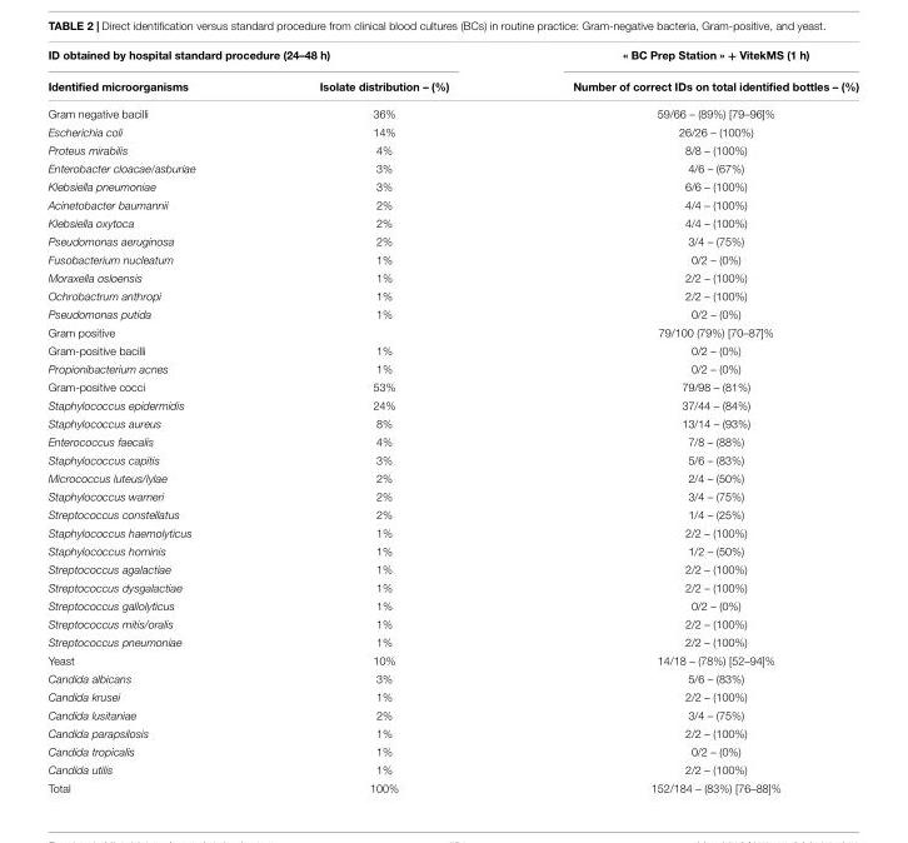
<table><thead><tr><td colspan="2">ID obtained by hospital standard procedure (24–48 h)</td><td rowspan="2">« BC Prep Station » + VitekMS (1 h) Number of correct IDs on total identified bottles – (%)</td></tr><tr><td>Identified microorganisms</td><td>Isolate distribution – (%)</td></tr></thead><tbody><tr><td>Gram negative bacilli</td><td>36%</td><td>59/66 – (89%) [79–96]%</td></tr><tr><td>Escherichia coli</td><td>14%</td><td>26/26 – (100%)</td></tr><tr><td>Proteus mirabilis</td><td>4%</td><td>8/8 – (100%)</td></tr><tr><td>Enterobacter cloacae/asburiae</td><td>3%</td><td>4/6 – (67%)</td></tr><tr><td>Klebsiella pneumoniae</td><td>3%</td><td>6/6 – (100%)</td></tr><tr><td>Acinetobacter baumannii</td><td>2%</td><td>4/4 – (100%)</td></tr><tr><td>Klebsiella oxytoca</td><td>2%</td><td>4/4 – (100%)</td></tr><tr><td>Pseudomonas aeruginosa</td><td>2%</td><td>3/4 – (75%)</td></tr><tr><td>Fusobacterium nucleatum</td><td>1%</td><td>0/2 – (0%)</td></tr><tr><td>Moraxella osloensis</td><td>1%</td><td>2/2 – (100%)</td></tr><tr><td>Ochrobactrum anthropi</td><td>1%</td><td>2/2 – (100%)</td></tr><tr><td>Pseudomonas putida</td><td>1%</td><td>0/2 – (0%)</td></tr><tr><td>Gram positive</td><td></td><td>79/100 (79%) [70–87]%</td></tr><tr><td>Gram-positive bacilli</td><td>1%</td><td>0/2 – (0%)</td></tr><tr><td>Propionibacterium acnes</td><td>1%</td><td>0/2 – (0%)</td></tr><tr><td>Gram-positive cocci</td><td>53%</td><td>79/98 – (81%)</td></tr><tr><td>Staphylococcus epidermidis</td><td>24%</td><td>37/44 – (84%)</td></tr><tr><td>Staphylococcus aureus</td><td>8%</td><td>13/14 – (93%)</td></tr><tr><td>Enterococcus faecalis</td><td>4%</td><td>7/8 – (88%)</td></tr><tr><td>Staphylococcus capitis</td><td>3%</td><td>5/6 – (83%)</td></tr><tr><td>Micrococcus luteus/lylae</td><td>2%</td><td>2/4 – (50%)</td></tr><tr><td>Staphylococcus warneri</td><td>2%</td><td>3/4 – (75%)</td></tr><tr><td>Streptococcus constellatus</td><td>2%</td><td>1/4 – (25%)</td></tr><tr><td>Staphylococcus haemolyticus</td><td>1%</td><td>2/2 – (100%)</td></tr><tr><td>Staphylococcus hominis</td><td>1%</td><td>1/2 – (50%)</td></tr><tr><td>Streptococcus agalactiae</td><td>1%</td><td>2/2 – (100%)</td></tr><tr><td>Streptococcus dysgalactiae</td><td>1%</td><td>2/2 – (100%)</td></tr><tr><td>Streptococcus gallolyticus</td><td>1%</td><td>0/2 – (0%)</td></tr><tr><td>Streptococcus mitis/oralis</td><td>1%</td><td>2/2 – (100%)</td></tr><tr><td>Streptococcus pneumoniae</td><td>1%</td><td>2/2 – (100%)</td></tr><tr><td>Yeast</td><td>10%</td><td>14/18 – (78%) [52–94]%</td></tr><tr><td>Candida albicans</td><td>3%</td><td>5/6 – (83%)</td></tr><tr><td>Candida krusei</td><td>1%</td><td>2/2 – (100%)</td></tr><tr><td>Candida lusitaniae</td><td>2%</td><td>3/4 – (75%)</td></tr><tr><td>Candida parapsilosis</td><td>1%</td><td>2/2 – (100%)</td></tr><tr><td>Candida tropicalis</td><td>1%</td><td>0/2 – (0%)</td></tr><tr><td>Candida utilis</td><td>1%</td><td>2/2 – (100%)</td></tr><tr><td>Total</td><td>100%</td><td>152/184 – (83%) [76–88]%</td></tr></tbody></table>